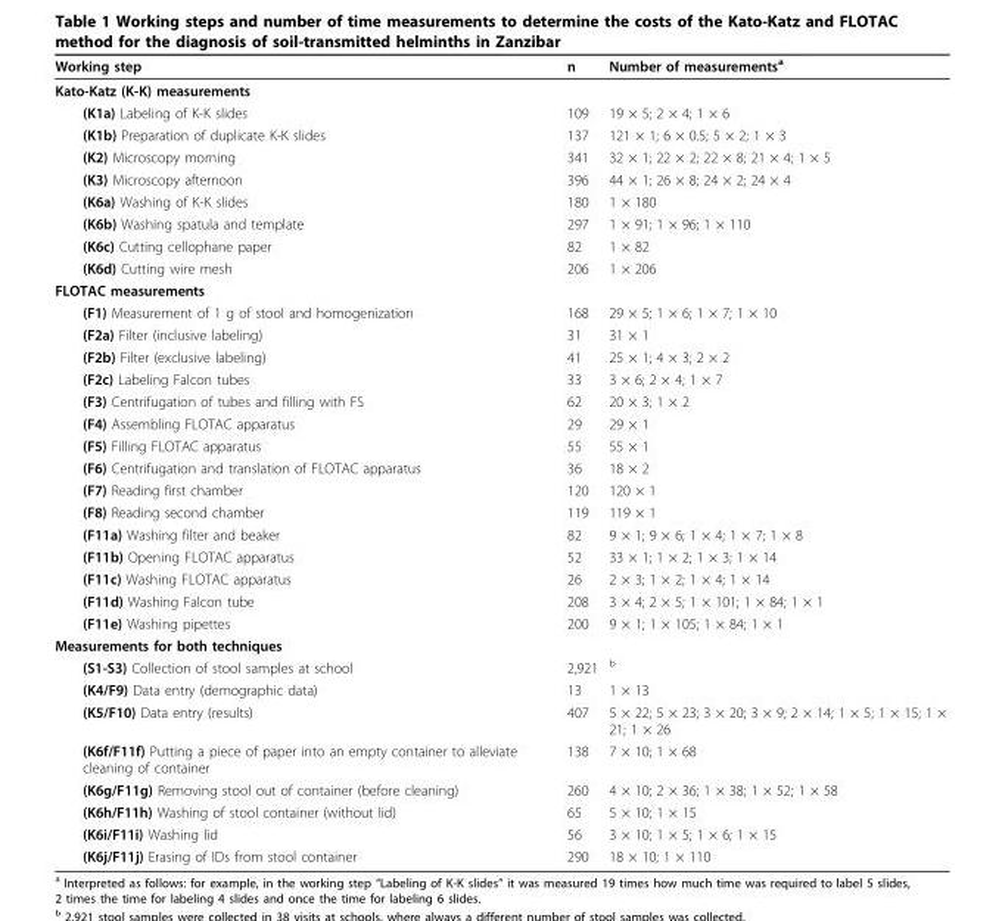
<table><thead><tr><td>Working step</td><td>n</td><td>Number of measurements<sup>a</sup></td></tr></thead><tbody><tr><td colspan="3">Kato-Katz (K-K) measurements</td></tr><tr><td>(K1a) Labeling of K-K slides</td><td>109</td><td>19 × 5; 2 × 4; 1 × 6</td></tr><tr><td>(K1b) Preparation of duplicate K-K slides</td><td>137</td><td>121 × 1; 6 × 0.5; 5 × 2; 1 × 3</td></tr><tr><td>(K2) Microscopy morning</td><td>341</td><td>32 × 1; 22 × 2; 22 × 8; 21 × 4; 1 × 5</td></tr><tr><td>(K3) Microscopy afternoon</td><td>396</td><td>44 × 1; 26 × 8; 24 × 2; 24 × 4</td></tr><tr><td>(K6a) Washing of K-K slides</td><td>180</td><td>1 × 180</td></tr><tr><td>(K6b) Washing spatula and template</td><td>297</td><td>1 × 91; 1 × 96; 1 × 110</td></tr><tr><td>(K6c) Cutting cellophane paper</td><td>82</td><td>1 × 82</td></tr><tr><td>(K6d) Cutting wire mesh</td><td>206</td><td>1 × 206</td></tr><tr><td colspan="3">FLOTAC measurements</td></tr><tr><td>(F1) Measurement of 1 g of stool and homogenization</td><td>168</td><td>29 × 5; 1 × 6; 1 × 7; 1 × 10</td></tr><tr><td>(F2a) Filter (inclusive labeling)</td><td>31</td><td>31 × 1</td></tr><tr><td>(F2b) Filter (exclusive labeling)</td><td>41</td><td>25 × 1; 4 × 3; 2 × 2</td></tr><tr><td>(F2c) Labeling Falcon tubes</td><td>33</td><td>3 × 6; 2 × 4; 1 × 7</td></tr><tr><td>(F3) Centrifugation of tubes and filling with FS</td><td>62</td><td>20 × 3; 1 × 2</td></tr><tr><td>(F4) Assembling FLOTAC apparatus</td><td>29</td><td>29 × 1</td></tr><tr><td>(F5) Filling FLOTAC apparatus</td><td>55</td><td>55 × 1</td></tr><tr><td>(F6) Centrifugation and translation of FLOTAC apparatus</td><td>36</td><td>18 × 2</td></tr><tr><td>(F7) Reading first chamber</td><td>120</td><td>120 × 1</td></tr><tr><td>(F8) Reading second chamber</td><td>119</td><td>119 × 1</td></tr><tr><td>(F11a) Washing filter and beaker</td><td>82</td><td>9 × 1; 9 × 6; 1 × 4; 1 × 7; 1 × 8</td></tr><tr><td>(F11b) Opening FLOTAC apparatus</td><td>52</td><td>33 × 1; 1 × 2; 1 × 3; 1 × 14</td></tr><tr><td>(F11c) Washing FLOTAC apparatus</td><td>26</td><td>2 × 3; 1 × 2; 1 × 4; 1 × 14</td></tr><tr><td>(F11d) Washing Falcon tube</td><td>208</td><td>3 × 4; 2 × 5; 1 × 101; 1 × 84; 1 × 1</td></tr><tr><td>(F11e) Washing pipettes</td><td>200</td><td>9 × 1; 1 × 105; 1 × 84; 1 × 1</td></tr><tr><td colspan="3">Measurements for both techniques</td></tr><tr><td>(S1-S3) Collection of stool samples at school</td><td>2,921</td><td><sup>b</sup></td></tr><tr><td>(K4/F9) Data entry (demographic data)</td><td>13</td><td>1 × 13</td></tr><tr><td>(K5/F10) Data entry (results)</td><td>407</td><td>5 × 22; 5 × 23; 3 × 20; 3 × 9; 2 × 14; 1 × 5; 1 × 15; 1 × 21; 1 × 26</td></tr><tr><td>(K6f/F11f) Putting a piece of paper into an empty container to alleviate cleaning of container</td><td>138</td><td>7 × 10; 1 × 68</td></tr><tr><td>(K6g/F11g) Removing stool out of container (before cleaning)</td><td>260</td><td>4 × 10; 2 × 36; 1 × 38; 1 × 52; 1 × 58</td></tr><tr><td>(K6h/F11h) Washing of stool container (without lid)</td><td>65</td><td>5 × 10; 1 × 15</td></tr><tr><td>(K6i/F11i) Washing lid</td><td>56</td><td>3 × 10; 1 × 5; 1 × 6; 1 × 15</td></tr><tr><td>(K6j/F11j) Erasing of IDs from stool container</td><td>290</td><td>18 × 10; 1 × 110</td></tr></tbody></table>